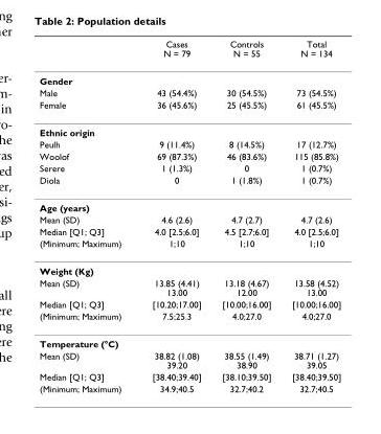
<table><thead><tr><td></td><td>Cases N = 79</td><td>Controls N = 55</td><td>Total N = 134</td></tr></thead><tbody><tr><td colspan="4">Gender</td></tr><tr><td>Male</td><td>43 (54.4%)</td><td>30 (54.5%)</td><td>73 (54.5%)</td></tr><tr><td>Female</td><td>36 (45.6%)</td><td>25 (45.5%)</td><td>61 (45.5%)</td></tr><tr><td colspan="4">Ethnic origin</td></tr><tr><td>Peulh</td><td>9 (11.4%)</td><td>8 (14.5%)</td><td>17 (12.7%)</td></tr><tr><td>Woolof</td><td>69 (87.3%)</td><td>46 (83.6%)</td><td>115 (85.8%)</td></tr><tr><td>Serere</td><td>1 (1.3%)</td><td>0</td><td>1 (0.7%)</td></tr><tr><td>Diola</td><td>0</td><td>1 (1.8%)</td><td>1 (0.7%)</td></tr><tr><td colspan="4">Age (years)</td></tr><tr><td>Mean (SD)</td><td>4.6 (2.6)</td><td>4.7 (2.7)</td><td>4.7 (2.6)</td></tr><tr><td>Median [Q1; Q3]</td><td>4.0 [2.5;6.0]</td><td>4.5 [2.7;6.0]</td><td>4.0 [2.5;6.0]</td></tr><tr><td>(Minimum; Maximum)</td><td>1;10</td><td>1;10</td><td>1;10</td></tr><tr><td colspan="4">Weight (Kg)</td></tr><tr><td>Mean (SD)</td><td>13.85 (4.41) 13.00</td><td>13.18 (4.67) 12.00</td><td>13.58 (4.52) 13.00</td></tr><tr><td>Median [Q1; Q3]</td><td>[10.20;17.00]</td><td>[10.00;16.00]</td><td>[10.00;16.00]</td></tr><tr><td>(Minimum; Maximum)</td><td>7.5;25.3</td><td>4.0;27.0</td><td>4.0;27.0</td></tr><tr><td colspan="4">Temperature (°C)</td></tr><tr><td>Mean (SD)</td><td>38.82 (1.08) 39.20</td><td>38.55 (1.49) 38.90</td><td>38.71 (1.27) 39.05</td></tr><tr><td>Median [Q1; Q3]</td><td>[38.40;39.40]</td><td>[38.10;39.50]</td><td>[38.40;39.50]</td></tr><tr><td>(Minimum; Maximum)</td><td>34.9;40.5</td><td>32.7;40.2</td><td>32.7;40.5</td></tr></tbody></table>